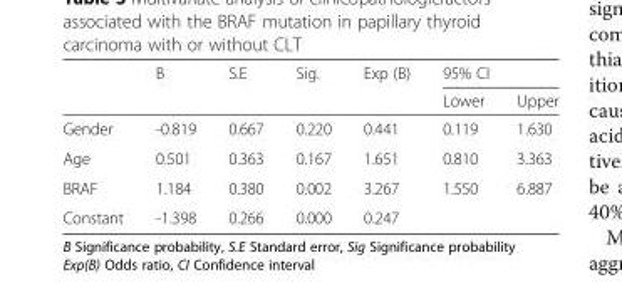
<table><thead><tr><td rowspan="2"></td><td rowspan="2">B</td><td rowspan="2">S.E</td><td rowspan="2">Sig.</td><td rowspan="2">Exp (B)</td><td colspan="2">95% CI</td></tr><tr><td>Lower</td><td>Upper</td></tr></thead><tbody><tr><td>Gender</td><td>-0.819</td><td>0.667</td><td>0.220</td><td>0.441</td><td>0.119</td><td>1.630</td></tr><tr><td>Age</td><td>0.501</td><td>0.363</td><td>0.167</td><td>1.651</td><td>0.810</td><td>3.363</td></tr><tr><td>BRAF</td><td>1.184</td><td>0.380</td><td>0.002</td><td>3.267</td><td>1.550</td><td>6.887</td></tr><tr><td>Constant</td><td>-1.398</td><td>0.266</td><td>0.000</td><td>0.247</td><td></td><td></td></tr></tbody></table>